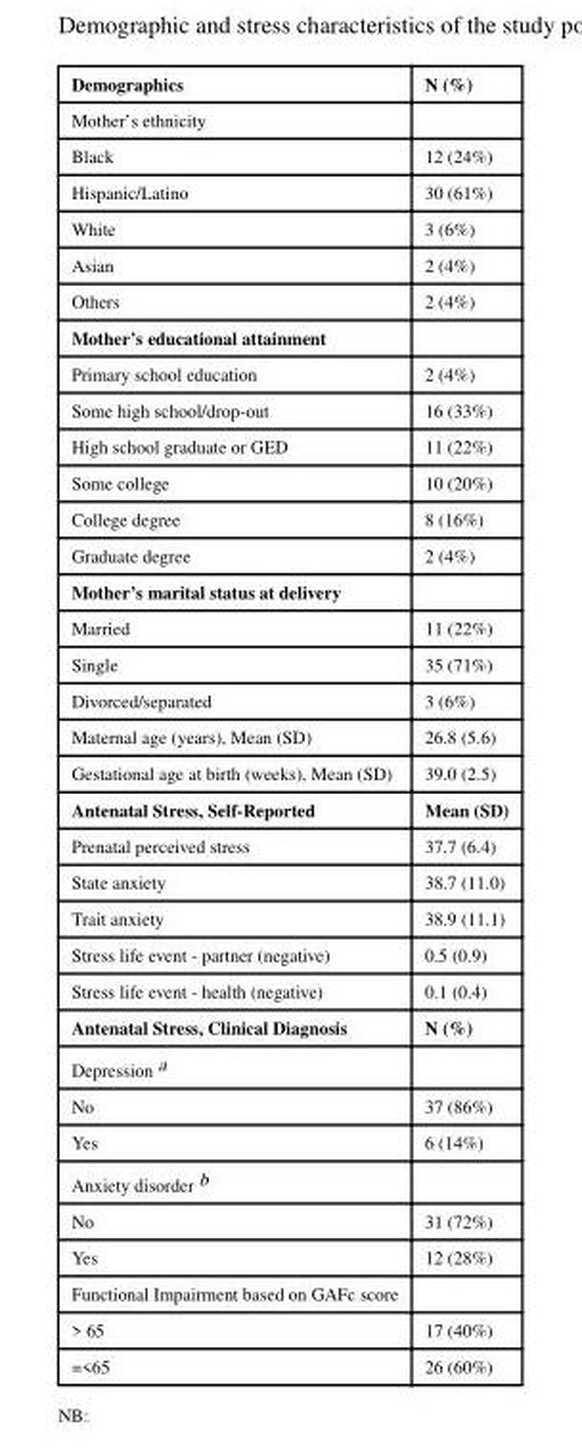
<table><tbody><tr><td>Demographics</td><td>N (%)</td></tr><tr><td colspan="2">Mother’s ethnicity</td></tr><tr><td>Black</td><td>12 (24%)</td></tr><tr><td>Hispanic/Latino</td><td>30 (61%)</td></tr><tr><td>White</td><td>3 (6%)</td></tr><tr><td>Asian</td><td>2 (4%)</td></tr><tr><td>Others</td><td>2 (4%)</td></tr><tr><td colspan="2">Mother’s educational attainment</td></tr><tr><td>Primary school education</td><td>2 (4%)</td></tr><tr><td>Some high school/drop-out</td><td>16 (33%)</td></tr><tr><td>High school graduate or GED</td><td>11 (22%)</td></tr><tr><td>Some college</td><td>10 (20%)</td></tr><tr><td>College degree</td><td>8 (16%)</td></tr><tr><td>Graduate degree</td><td>2 (4%)</td></tr><tr><td colspan="2">Mother’s marital status at delivery</td></tr><tr><td>Married</td><td>11 (22%)</td></tr><tr><td>Single</td><td>35 (71%)</td></tr><tr><td>Divorced/separated</td><td>3 (6%)</td></tr><tr><td>Maternal age (years), Mean (SD)</td><td>26.8 (5.6)</td></tr><tr><td>Gestational age at birth (weeks), Mean (SD)</td><td>39.0 (2.5)</td></tr><tr><td>Antenatal Stress, Self-Reported</td><td>Mean (SD)</td></tr><tr><td>Prenatal perceived stress</td><td>37.7 (6.4)</td></tr><tr><td>State anxiety</td><td>38.7 (11.0)</td></tr><tr><td>Trait anxiety</td><td>38.9 (11.1)</td></tr><tr><td>Stress life event - partner (negative)</td><td>0.5 (0.9)</td></tr><tr><td>Stress life event - health (negative)</td><td>0.1 (0.4)</td></tr><tr><td>Antenatal Stress, Clinical Diagnosis</td><td>N (%)</td></tr><tr><td colspan="2">Depression a</td></tr><tr><td>No</td><td>37 (86%)</td></tr><tr><td>Yes</td><td>6 (14%)</td></tr><tr><td colspan="2">Anxiety disorder b</td></tr><tr><td>No</td><td>31 (72%)</td></tr><tr><td>Yes</td><td>12 (28%)</td></tr><tr><td colspan="2">Functional Impairment based on GAFc score</td></tr><tr><td>&gt; 65</td><td>17 (40%)</td></tr><tr><td>=&lt;65</td><td>26 (60%)</td></tr></tbody></table>